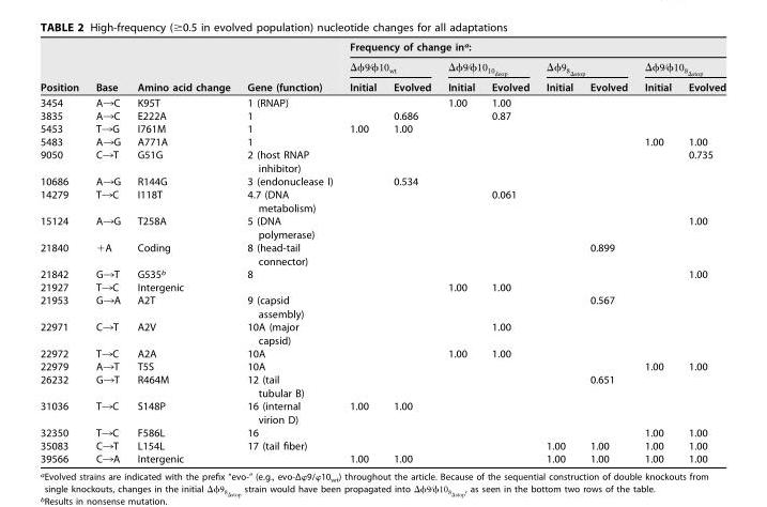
<table><thead><tr><td rowspan="3">Position</td><td rowspan="3">Base</td><td rowspan="3">Amino acid change</td><td rowspan="3">Gene (function)</td><td colspan="8">Frequency of change in<sup>a</sup>:</td></tr><tr><td colspan="2">Δϕ9⁄ϕ10wt</td><td colspan="2">Δϕ9⁄ϕ1010deop</td><td colspan="2">Δϕ98Δstop</td><td colspan="2">Δϕ9⁄ϕ108Δstop</td></tr><tr><td>Initial</td><td>Evolved</td><td>Initial</td><td>Evolved</td><td>Initial</td><td>Evolved</td><td>Initial</td><td>Evolved</td></tr></thead><tbody><tr><td>3454</td><td>A→C</td><td>K95T</td><td>1 (RNAP)</td><td></td><td></td><td>1.00</td><td>1.00</td><td></td><td></td><td></td><td></td></tr><tr><td>3835</td><td>A→C</td><td>E222A</td><td>1</td><td></td><td>0.686</td><td></td><td>0.87</td><td></td><td></td><td></td><td></td></tr><tr><td>5453</td><td>T→G</td><td>I761M</td><td>1</td><td>1.00</td><td>1.00</td><td></td><td></td><td></td><td></td><td></td><td></td></tr><tr><td>5483</td><td>A→G</td><td>A771A</td><td>1</td><td></td><td></td><td></td><td></td><td></td><td></td><td>1.00</td><td>1.00</td></tr><tr><td>9050</td><td>C→T</td><td>G51G</td><td>2 (host RNAP inhibitor)</td><td></td><td></td><td></td><td></td><td></td><td></td><td></td><td>0.735</td></tr><tr><td>10686</td><td>A→G</td><td>R144G</td><td>3 (endonuclease I)</td><td></td><td>0.534</td><td></td><td></td><td></td><td></td><td></td><td></td></tr><tr><td>14279</td><td>T→C</td><td>I118T</td><td>4.7 (DNA metabolism)</td><td></td><td></td><td></td><td>0.061</td><td></td><td></td><td></td><td></td></tr><tr><td>15124</td><td>A→G</td><td>T258A</td><td>5 (DNA polymerase)</td><td></td><td></td><td></td><td></td><td></td><td></td><td></td><td>1.00</td></tr><tr><td>21840</td><td>+A</td><td>Coding</td><td>8 (head-tail connector)</td><td></td><td></td><td></td><td></td><td></td><td>0.899</td><td></td><td></td></tr><tr><td>21842</td><td>G→T</td><td>G535<sup>b</sup></td><td>8</td><td></td><td></td><td></td><td></td><td></td><td></td><td></td><td>1.00</td></tr><tr><td>21927</td><td>T→C</td><td>Intergenic</td><td></td><td></td><td></td><td>1.00</td><td>1.00</td><td></td><td></td><td></td><td></td></tr><tr><td>21953</td><td>G→A</td><td>A2T</td><td>9 (capsid assembly)</td><td></td><td></td><td></td><td></td><td></td><td>0.567</td><td></td><td></td></tr><tr><td>22971</td><td>C→T</td><td>A2V</td><td>10A (major capsid)</td><td></td><td></td><td></td><td>1.00</td><td></td><td></td><td></td><td></td></tr><tr><td>22972</td><td>T→C</td><td>A2A</td><td>10A</td><td></td><td></td><td>1.00</td><td>1.00</td><td></td><td></td><td></td><td></td></tr><tr><td>22979</td><td>A→T</td><td>T5S</td><td>10A</td><td></td><td></td><td></td><td></td><td></td><td></td><td>1.00</td><td>1.00</td></tr><tr><td>26232</td><td>G→T</td><td>R464M</td><td>12 (tail tubular B)</td><td></td><td></td><td></td><td></td><td></td><td>0.651</td><td></td><td></td></tr><tr><td>31036</td><td>T→C</td><td>S148P</td><td>16 (internal virion D)</td><td>1.00</td><td>1.00</td><td></td><td></td><td></td><td></td><td></td><td></td></tr><tr><td>32350</td><td>T→C</td><td>F586L</td><td>16</td><td></td><td></td><td></td><td></td><td></td><td></td><td>1.00</td><td>1.00</td></tr><tr><td>35083</td><td>C→T</td><td>L154L</td><td>17 (tail fiber)</td><td></td><td></td><td></td><td></td><td>1.00</td><td>1.00</td><td>1.00</td><td>1.00</td></tr><tr><td>39566</td><td>C→A</td><td>Intergenic</td><td></td><td>1.00</td><td>1.00</td><td></td><td></td><td>1.00</td><td>1.00</td><td>1.00</td><td>1.00</td></tr></tbody></table>